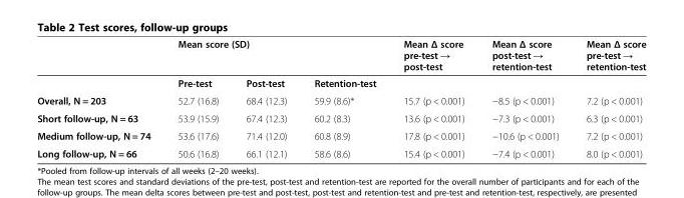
<table><thead><tr><td rowspan="2"></td><td colspan="3">Mean score (SD)</td><td rowspan="2">Mean Δ score pre-test → post-test</td><td rowspan="2">Mean Δ score post-test → retention-test</td><td rowspan="2">Mean Δ score pre-test → retention-test</td></tr><tr><td>Pre-test</td><td>Post-test</td><td>Retention-test</td></tr></thead><tbody><tr><td>Overall, N = 203</td><td>52.7 (16.8)</td><td>68.4 (12.3)</td><td>59.9 (8.6)*</td><td>15.7 (p &lt; 0.001)</td><td>−8.5 (p &lt; 0.001)</td><td>7.2 (p &lt; 0.001)</td></tr><tr><td>Short follow-up, N = 63</td><td>53.9 (15.9)</td><td>67.4 (12.3)</td><td>60.2 (8.3)</td><td>13.6 (p &lt; 0.001)</td><td>−7.3 (p &lt; 0.001)</td><td>6.3 (p &lt; 0.001)</td></tr><tr><td>Medium follow-up, N = 74</td><td>53.6 (17.6)</td><td>71.4 (12.0)</td><td>60.8 (8.9)</td><td>17.8 (p &lt; 0.001)</td><td>−10.6 (p &lt; 0.001)</td><td>7.2 (p &lt; 0.001)</td></tr><tr><td>Long follow-up, N = 66</td><td>50.6 (16.8)</td><td>66.1 (12.1)</td><td>58.6 (8.6)</td><td>15.4 (p &lt; 0.001)</td><td>−7.4 (p &lt; 0.001)</td><td>8.0 (p &lt; 0.001)</td></tr></tbody></table>